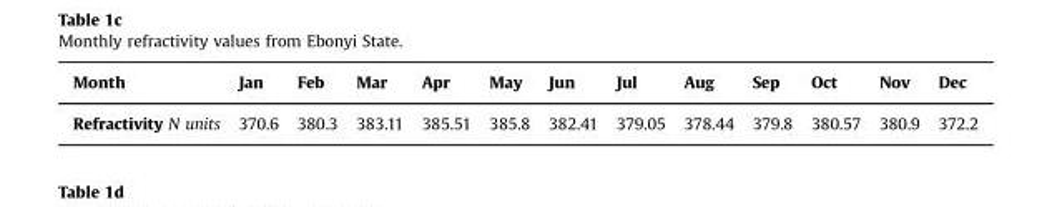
<table><thead><tr><td>Month</td><td>Jan</td><td>Feb</td><td>Mar</td><td>Apr</td><td>May</td><td>Jun</td><td>Jul</td><td>Aug</td><td>Sep</td><td>Oct</td><td>Nov</td><td>Dec</td></tr></thead><tbody><tr><td>Refractivity N units</td><td>370.6</td><td>380.3</td><td>383.11</td><td>385.51</td><td>385.8</td><td>382.41</td><td>379.05</td><td>378.44</td><td>379.8</td><td>380.57</td><td>380.9</td><td>372.2</td></tr></tbody></table>